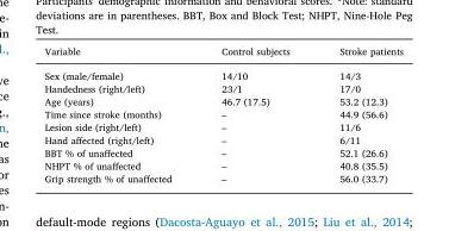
<table><thead><tr><td>Variable</td><td>Control subjects</td><td>Stroke patients</td></tr></thead><tbody><tr><td>Sex (male/female)</td><td>14/10</td><td>14/3</td></tr><tr><td>Handedness (right/left)</td><td>23/1</td><td>17/0</td></tr><tr><td>Age (years)</td><td>46.7 (17.5)</td><td>53.2 (12.3)</td></tr><tr><td>Time since stroke (months)</td><td>–</td><td>44.9 (56.6)</td></tr><tr><td>Lesion side (right/left)</td><td>–</td><td>11/6</td></tr><tr><td>Hand affected (right/left)</td><td>–</td><td>6/11</td></tr><tr><td>BBT % of unaffected</td><td>–</td><td>52.1 (26.6)</td></tr><tr><td>NHPT % of unaffected</td><td>–</td><td>40.8 (35.5)</td></tr><tr><td>Grip strength % of unaffected</td><td>–</td><td>56.0 (33.7)</td></tr></tbody></table>